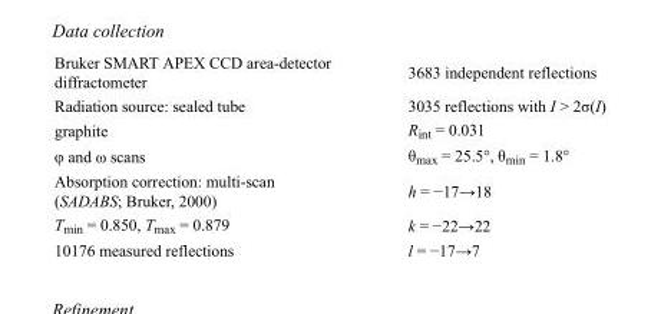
<table><tbody><tr><td>Bruker SMART APEX CCD area-detector diffractometer</td><td>3683 independent reflections</td></tr><tr><td>Radiation source: sealed tube</td><td>3035 reflections with I &gt; 2σ(I)</td></tr><tr><td>graphite</td><td>R<sub>int</sub> = 0.031</td></tr><tr><td>φ and ω scans</td><td>θ<sub>max</sub> = 25.5°, θ<sub>min</sub> = 1.8°</td></tr><tr><td>Absorption correction: multi-scan (SADABS; Bruker, 2000)</td><td>h = −17→18</td></tr><tr><td>T<sub>min</sub> = 0.850, T<sub>max</sub> = 0.879</td><td>k = −22→22</td></tr><tr><td>10176 measured reflections</td><td>l = −17→7</td></tr></tbody></table>